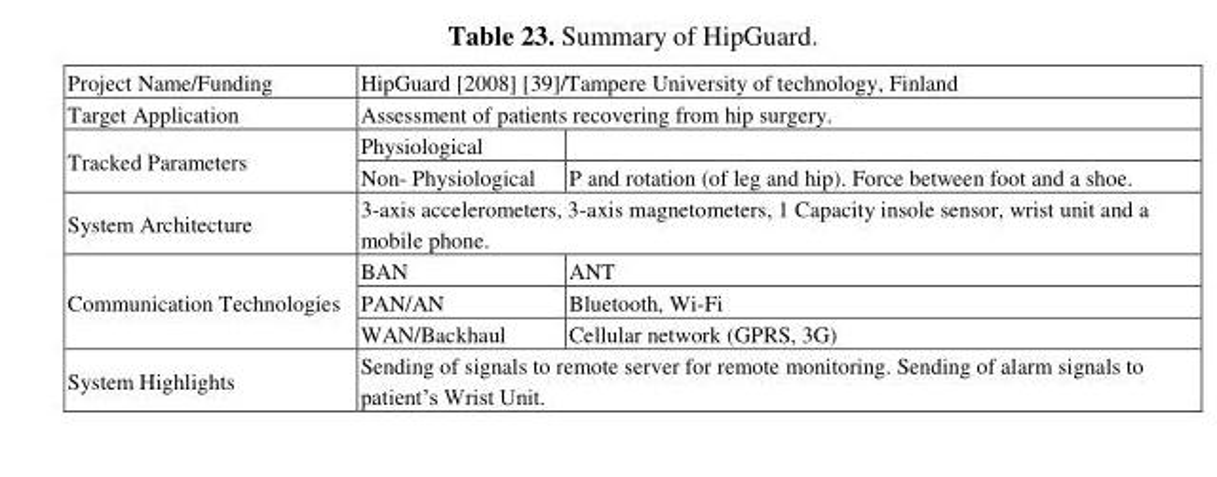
<table><tbody><tr><td>Project Name/Funding</td><td colspan="2">HipGuard [2008] [39]/Tampere University of technology, Finland</td></tr><tr><td>Target Application</td><td colspan="2">Assessment of patients recovering from hip surgery.</td></tr><tr><td rowspan="2">Tracked Parameters</td><td>Physiological</td><td></td></tr><tr><td>Non- Physiological</td><td>P and rotation (of leg and hip). Force between foot and a shoe.</td></tr><tr><td>System Architecture</td><td colspan="2">3-axis accelerometers, 3-axis magnetometers, 1 Capacity insole sensor, wrist unit and a mobile phone.</td></tr><tr><td rowspan="3">Communication Technologies</td><td>BAN</td><td>ANT</td></tr><tr><td>PAN/AN</td><td>Bluetooth, Wi-Fi</td></tr><tr><td>WAN/Backhaul</td><td>Cellular network (GPRS, 3G)</td></tr><tr><td>System Highlights</td><td colspan="2">Sending of signals to remote server for remote monitoring. Sending of alarm signals to patient’s Wrist Unit.</td></tr></tbody></table>